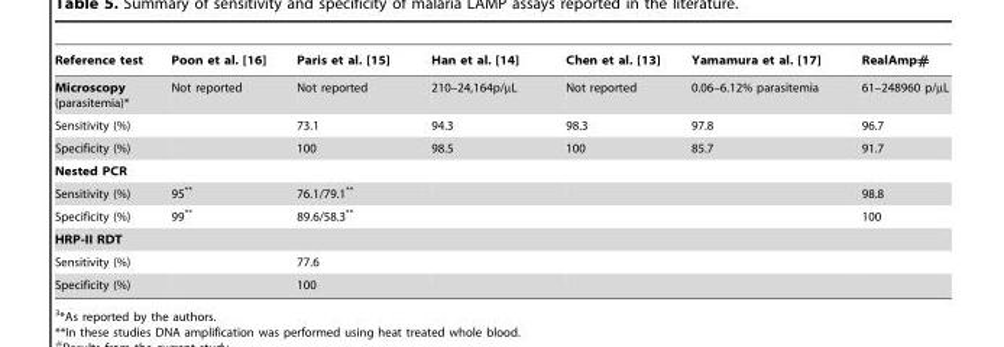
<table><thead><tr><td>Reference test</td><td>Poon et al. [16]</td><td>Paris et al. [15]</td><td>Han et al. [14]</td><td>Chen et al. [13]</td><td>Yamamura et al. [17]</td><td>RealAmp#</td></tr></thead><tbody><tr><td>Microscopy (parasitemia)*</td><td>Not reported</td><td>Not reported</td><td>210–24,164p/µL</td><td>Not reported</td><td>0.06–6.12% parasitemia</td><td>61–248960 p/µL</td></tr><tr><td>Sensitivity (%)</td><td></td><td>73.1</td><td>94.3</td><td>98.3</td><td>97.8</td><td>96.7</td></tr><tr><td>Specificity (%)</td><td></td><td>100</td><td>98.5</td><td>100</td><td>85.7</td><td>91.7</td></tr><tr><td colspan="7">Nested PCR</td></tr><tr><td>Sensitivity (%)</td><td>95**</td><td>76.1/79.1**</td><td></td><td></td><td></td><td>98.8</td></tr><tr><td>Specificity (%)</td><td>99**</td><td>89.6/58.3**</td><td></td><td></td><td></td><td>100</td></tr><tr><td colspan="7">HRP-II RDT</td></tr><tr><td>Sensitivity (%)</td><td></td><td>77.6</td><td></td><td></td><td></td><td></td></tr><tr><td>Specificity (%)</td><td></td><td>100</td><td></td><td></td><td></td><td></td></tr></tbody></table>